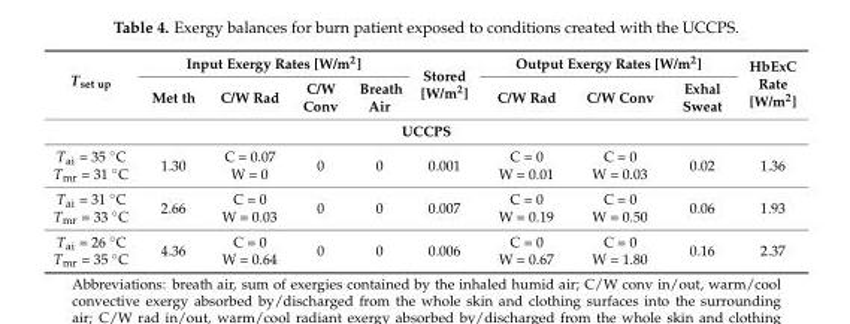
<table><thead><tr><td rowspan="2">T<sub>set up</sub></td><td colspan="4">Input Exergy Rates [W/m<sup>2</sup>]</td><td rowspan="2">Stored [W/m<sup>2</sup>]</td><td colspan="3">Output Exergy Rates [W/m<sup>2</sup>]</td><td rowspan="2">HbExC Rate [W/m<sup>2</sup>]</td></tr><tr><td>Met th</td><td>C/W Rad</td><td>C/W Conv</td><td>Breath Air</td><td>C/W Rad</td><td>C/W Conv</td><td>Exhal Sweat</td></tr></thead><tbody><tr><td colspan="10">UCCPS</td></tr><tr><td>Tai = 35 ◦C Tmr = 31 ◦C</td><td>1.30</td><td>C = 0.07 W = 0</td><td>0</td><td>0</td><td>0.001</td><td>C = 0 W = 0.01</td><td>C = 0 W = 0.03</td><td>0.02</td><td>1.36</td></tr><tr><td>Tai = 31 ◦C Tmr = 33 ◦C</td><td>2.66</td><td>C = 0 W = 0.03</td><td>0</td><td>0</td><td>0.007</td><td>C = 0 W = 0.19</td><td>C = 0 W = 0.50</td><td>0.06</td><td>1.93</td></tr><tr><td>Tai = 26 ◦C Tmr = 35 ◦C</td><td>4.36</td><td>C = 0 W = 0.64</td><td>0</td><td>0</td><td>0.006</td><td>C = 0 W = 0.67</td><td>C = 0 W = 1.80</td><td>0.16</td><td>2.37</td></tr></tbody></table>